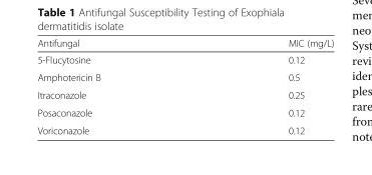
<table><thead><tr><td>Antifungal</td><td>MIC (mg/L)</td></tr></thead><tbody><tr><td>5-Flucytosine</td><td>0.12</td></tr><tr><td>Amphotericin B</td><td>0.5</td></tr><tr><td>Itraconazole</td><td>0.25</td></tr><tr><td>Posaconazole</td><td>0.12</td></tr><tr><td>Voriconazole</td><td>0.12</td></tr></tbody></table>